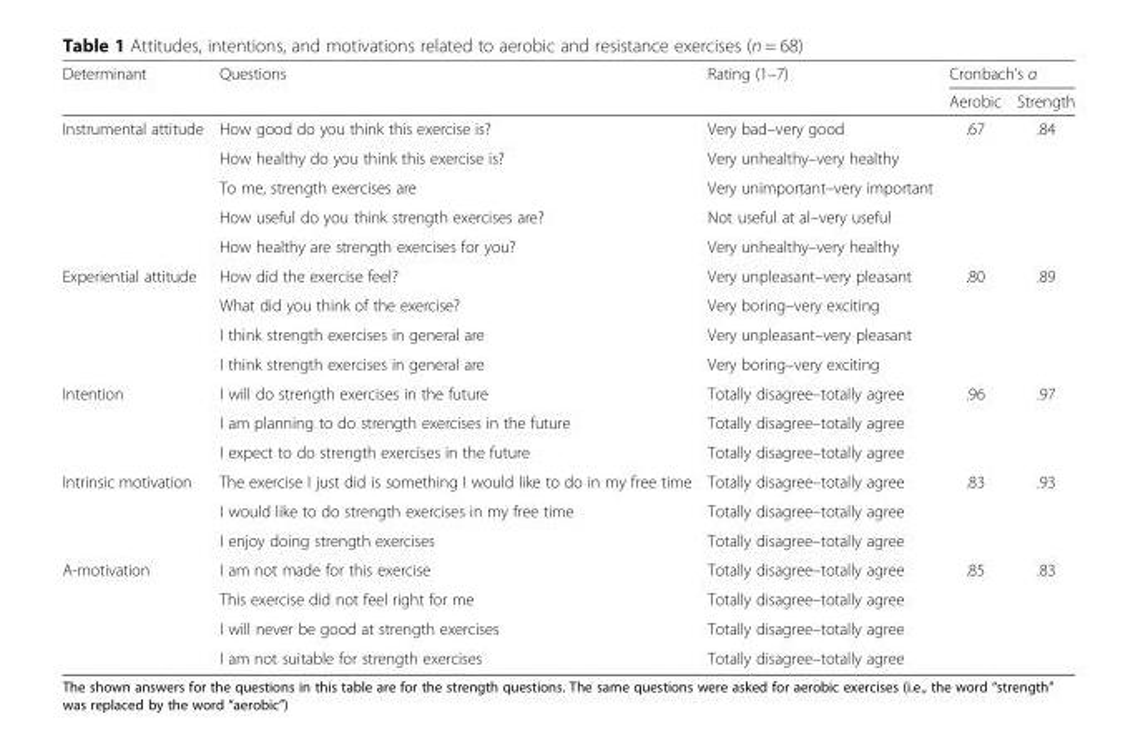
<table><thead><tr><td rowspan="2">Determinant</td><td rowspan="2">Questions</td><td rowspan="2">Rating (1–7)</td><td colspan="2">Cronbach’s α</td></tr><tr><td>Aerobic</td><td>Strength</td></tr></thead><tbody><tr><td rowspan="5">Instrumental attitude</td><td>How good do you think this exercise is?</td><td>Very bad–very good</td><td rowspan="5">.67</td><td rowspan="5">.84</td></tr><tr><td>How healthy do you think this exercise is?</td><td>Very unhealthy–very healthy</td></tr><tr><td>To me, strength exercises are</td><td>Very unimportant–very important</td></tr><tr><td>How useful do you think strength exercises are?</td><td>Not useful at al–very useful</td></tr><tr><td>How healthy are strength exercises for you?</td><td>Very unhealthy–very healthy</td></tr><tr><td rowspan="4">Experiential attitude</td><td>How did the exercise feel?</td><td>Very unpleasant–very pleasant</td><td rowspan="4">.80</td><td rowspan="4">.89</td></tr><tr><td>What did you think of the exercise?</td><td>Very boring–very exciting</td></tr><tr><td>I think strength exercises in general are</td><td>Very unpleasant–very pleasant</td></tr><tr><td>I think strength exercises in general are</td><td>Very boring–very exciting</td></tr><tr><td rowspan="3">Intention</td><td>I will do strength exercises in the future</td><td>Totally disagree–totally agree</td><td rowspan="3">.96</td><td rowspan="3">.97</td></tr><tr><td>I am planning to do strength exercises in the future</td><td>Totally disagree–totally agree</td></tr><tr><td>I expect to do strength exercises in the future</td><td>Totally disagree–totally agree</td></tr><tr><td rowspan="3">Intrinsic motivation</td><td>The exercise I just did is something I would like to do in my free time</td><td>Totally disagree–totally agree</td><td rowspan="3">.83</td><td rowspan="3">.93</td></tr><tr><td>I would like to do strength exercises in my free time</td><td>Totally disagree–totally agree</td></tr><tr><td>I enjoy doing strength exercises</td><td>Totally disagree–totally agree</td></tr><tr><td rowspan="4">A-motivation</td><td>I am not made for this exercise</td><td>Totally disagree–totally agree</td><td rowspan="4">.85</td><td rowspan="4">.83</td></tr><tr><td>This exercise did not feel right for me</td><td>Totally disagree–totally agree</td></tr><tr><td>I will never be good at strength exercises</td><td>Totally disagree–totally agree</td></tr><tr><td>I am not suitable for strength exercises</td><td>Totally disagree–totally agree</td></tr></tbody></table>